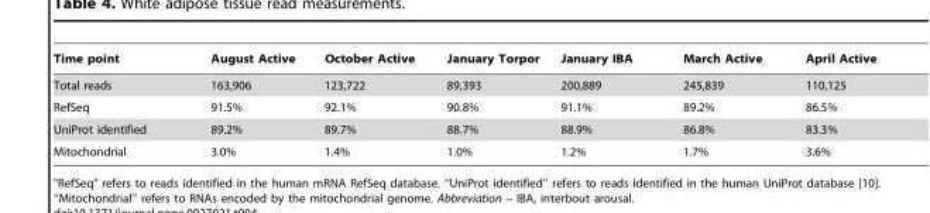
<table><thead><tr><td>Time point</td><td>August Active</td><td>October Active</td><td>January Torpor</td><td>January IBA</td><td>March Active</td><td>April Active</td></tr></thead><tbody><tr><td>Total reads</td><td>163,906</td><td>123,722</td><td>89,393</td><td>200,889</td><td>245,839</td><td>110,125</td></tr><tr><td>RefSeq</td><td>91.5%</td><td>92.1%</td><td>90.8%</td><td>91.1%</td><td>89.2%</td><td>86.5%</td></tr><tr><td>UniProt identified</td><td>89.2%</td><td>89.7%</td><td>88.7%</td><td>88.9%</td><td>86.8%</td><td>83.3%</td></tr><tr><td>Mitochondrial</td><td>3.0%</td><td>1.4%</td><td>1.0%</td><td>1.2%</td><td>1.7%</td><td>3.6%</td></tr></tbody></table>